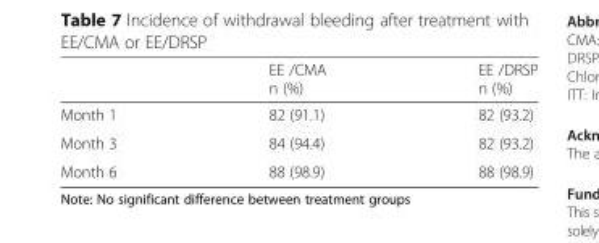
<table><thead><tr><td></td><td>EE /CMA n (%)</td><td>EE /DRSP n (%)</td></tr></thead><tbody><tr><td>Month 1</td><td>82 (91.1)</td><td>82 (93.2)</td></tr><tr><td>Month 3</td><td>84 (94.4)</td><td>82 (93.2)</td></tr><tr><td>Month 6</td><td>88 (98.9)</td><td>88 (98.9)</td></tr></tbody></table>